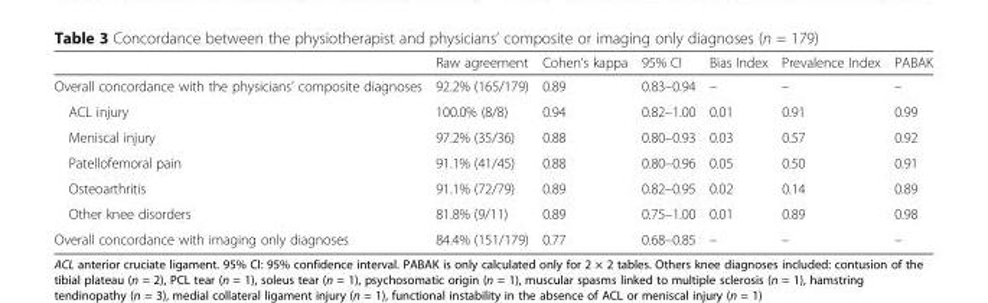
<table><thead><tr><td></td><td>Raw agreement</td><td>Cohen’s kappa</td><td>95% CI</td><td>Bias Index</td><td>Prevalence Index</td><td>PABAK</td></tr></thead><tbody><tr><td>Overall concordance with the physicians’ composite diagnoses</td><td>92.2% (165/179)</td><td>0.89</td><td>0.83–0.94</td><td>–</td><td>–</td><td>–</td></tr><tr><td>ACL injury</td><td>100.0% (8/8)</td><td>0.94</td><td>0.82–1.00</td><td>0.01</td><td>0.91</td><td>0.99</td></tr><tr><td>Meniscal injury</td><td>97.2% (35/36)</td><td>0.88</td><td>0.80–0.93</td><td>0.03</td><td>0.57</td><td>0.92</td></tr><tr><td>Patellofemoral pain</td><td>91.1% (41/45)</td><td>0.88</td><td>0.80–0.96</td><td>0.05</td><td>0.50</td><td>0.91</td></tr><tr><td>Osteoarthritis</td><td>91.1% (72/79)</td><td>0.89</td><td>0.82–0.95</td><td>0.02</td><td>0.14</td><td>0.89</td></tr><tr><td>Other knee disorders</td><td>81.8% (9/11)</td><td>0.89</td><td>0.75–1.00</td><td>0.01</td><td>0.89</td><td>0.98</td></tr><tr><td>Overall concordance with imaging only diagnoses</td><td>84.4% (151/179)</td><td>0.77</td><td>0.68–0.85</td><td>–</td><td>–</td><td>–</td></tr></tbody></table>